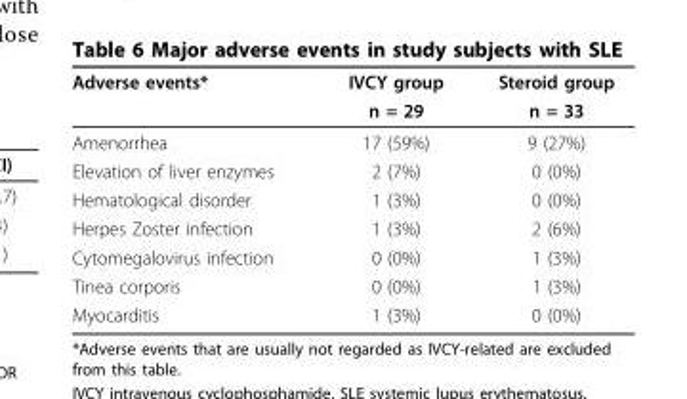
<table><thead><tr><td rowspan="2">Adverse events*</td><td rowspan="2">IVCY group n = 29</td><td rowspan="2">Steroid group n = 33</td></tr><tr></tr></thead><tbody><tr><td>Amenorrhea</td><td>17 (59%)</td><td>9 (27%)</td></tr><tr><td>Elevation of liver enzymes</td><td>2 (7%)</td><td>0 (0%)</td></tr><tr><td>Hematological disorder</td><td>1 (3%)</td><td>0 (0%)</td></tr><tr><td>Herpes Zoster infection</td><td>1 (3%)</td><td>2 (6%)</td></tr><tr><td>Cytomegalovirus infection</td><td>0 (0%)</td><td>1 (3%)</td></tr><tr><td>Tinea corporis</td><td>0 (0%)</td><td>1 (3%)</td></tr><tr><td>Myocarditis</td><td>1 (3%)</td><td>0 (0%)</td></tr></tbody></table>